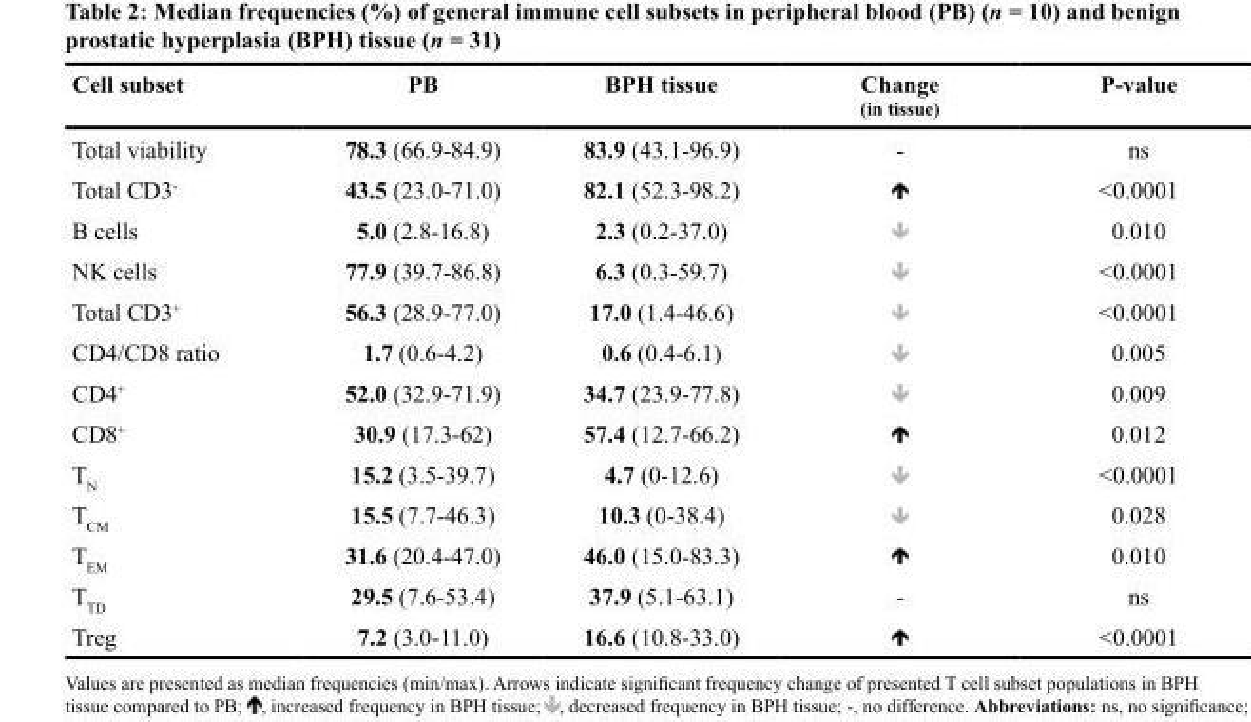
<table><thead><tr><td>Cell subset</td><td>PB</td><td>BPH tissue</td><td>Change (in tissue)</td><td>P-value</td></tr></thead><tbody><tr><td>Total viability</td><td>78.3 (66.9-84.9)</td><td>83.9 (43.1-96.9)</td><td>-</td><td>ns</td></tr><tr><td>Total CD3<sup>-</sup></td><td>43.5 (23.0-71.0)</td><td>82.1 (52.3-98.2)</td><td></td><td>&lt;0.0001</td></tr><tr><td>B cells</td><td>5.0 (2.8-16.8)</td><td>2.3 (0.2-37.0)</td><td></td><td>0.010</td></tr><tr><td>NK cells</td><td>77.9 (39.7-86.8)</td><td>6.3 (0.3-59.7)</td><td></td><td>&lt;0.0001</td></tr><tr><td>Total CD3<sup>+</sup></td><td>56.3 (28.9-77.0)</td><td>17.0 (1.4-46.6)</td><td></td><td>&lt;0.0001</td></tr><tr><td>CD4/CD8 ratio</td><td>1.7 (0.6-4.2)</td><td>0.6 (0.4-6.1)</td><td></td><td>0.005</td></tr><tr><td>CD4<sup>+</sup></td><td>52.0 (32.9-71.9)</td><td>34.7 (23.9-77.8)</td><td></td><td>0.009</td></tr><tr><td>CD8<sup>+</sup></td><td>30.9 (17.3-62)</td><td>57.4 (12.7-66.2)</td><td></td><td>0.012</td></tr><tr><td>T<sub>N</sub></td><td>15.2 (3.5-39.7)</td><td>4.7 (0-12.6)</td><td></td><td>&lt;0.0001</td></tr><tr><td>T<sub>CM</sub></td><td>15.5 (7.7-46.3)</td><td>10.3 (0-38.4)</td><td></td><td>0.028</td></tr><tr><td>T<sub>EM</sub></td><td>31.6 (20.4-47.0)</td><td>46.0 (15.0-83.3)</td><td></td><td>0.010</td></tr><tr><td>T<sub>TD</sub></td><td>29.5 (7.6-53.4)</td><td>37.9 (5.1-63.1)</td><td>-</td><td>ns</td></tr><tr><td>Treg</td><td>7.2 (3.0-11.0)</td><td>16.6 (10.8-33.0)</td><td></td><td>&lt;0.0001</td></tr></tbody></table>